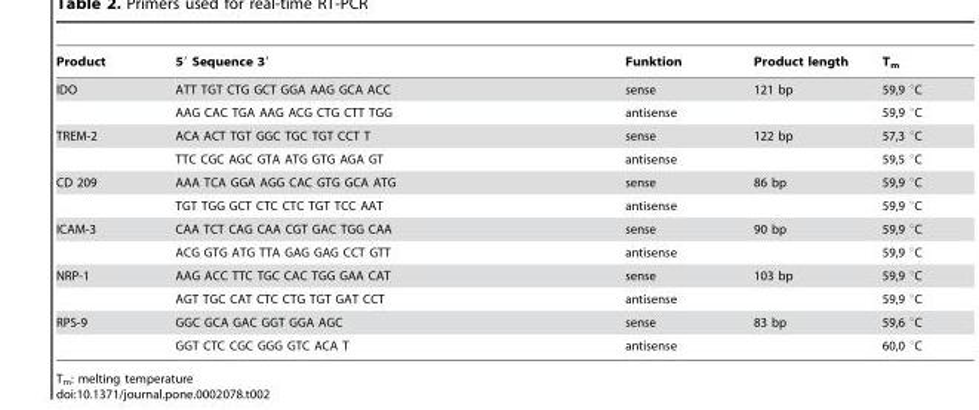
<table><thead><tr><td>Product</td><td>5′ Sequence 3′</td><td>Funktion</td><td>Product length</td><td>T<sub>m</sub></td></tr></thead><tbody><tr><td rowspan="2">IDO</td><td>ATT TGT CTG GCT GGA AAG GCA ACC</td><td>sense</td><td>121 bp</td><td>59,9 °C</td></tr><tr><td>AAG CAC TGA AAG ACG CTG CTT TGG</td><td>antisense</td><td></td><td>59,9 °C</td></tr><tr><td rowspan="2">TREM-2</td><td>ACA ACT TGT GGC TGC TGT CCT T</td><td>sense</td><td>122 bp</td><td>57,3 °C</td></tr><tr><td>TTC CGC AGC GTA ATG GTG AGA GT</td><td>antisense</td><td></td><td>59,5 °C</td></tr><tr><td rowspan="2">CD 209</td><td>AAA TCA GGA AGG CAC GTG GCA ATG</td><td>sense</td><td>86 bp</td><td>59,9 °C</td></tr><tr><td>TGT TGG GCT CTC CTC TGT TCC AAT</td><td>antisense</td><td></td><td>59,9 °C</td></tr><tr><td rowspan="2">ICAM-3</td><td>CAA TCT CAG CAA CGT GAC TGG CAA</td><td>sense</td><td>90 bp</td><td>59,9 °C</td></tr><tr><td>ACG GTG ATG TTA GAG GAG CCT GTT</td><td>antisense</td><td></td><td>59,9 °C</td></tr><tr><td rowspan="2">NRP-1</td><td>AAG ACC TTC TGC CAC TGG GAA CAT</td><td>sense</td><td>103 bp</td><td>59,9 °C</td></tr><tr><td>AGT TGC CAT CTC CTG TGT GAT CCT</td><td>antisense</td><td></td><td>59,9 °C</td></tr><tr><td rowspan="2">RPS-9</td><td>GGC GCA GAC GGT GGA AGC</td><td>sense</td><td>83 bp</td><td>59,6 °C</td></tr><tr><td>GGT CTC CGC GGG GTC ACA T</td><td>antisense</td><td></td><td>60,0 °C</td></tr></tbody></table>